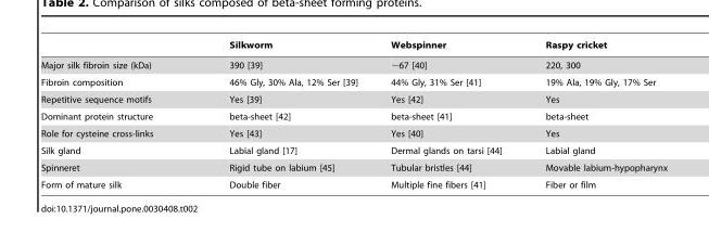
<table><thead><tr><td></td><td>Silkworm</td><td>Webspinner</td><td>Raspy cricket</td></tr></thead><tbody><tr><td>Major silk fibroin size (kDa)</td><td>390 [39]</td><td>∼67 [40]</td><td>220, 300</td></tr><tr><td>Fibroin composition</td><td>46% Gly, 30% Ala, 12% Ser [39]</td><td>44% Gly, 31% Ser [41]</td><td>19% Ala, 19% Gly, 17% Ser</td></tr><tr><td>Repetitive sequence motifs</td><td>Yes [39]</td><td>Yes [42]</td><td>Yes</td></tr><tr><td>Dominant protein structure</td><td>beta-sheet [42]</td><td>beta-sheet [41]</td><td>beta-sheet</td></tr><tr><td>Role for cysteine cross-links</td><td>Yes [43]</td><td>Yes [40]</td><td>Yes</td></tr><tr><td>Silk gland</td><td>Labial gland [17]</td><td>Dermal glands on tarsi [44]</td><td>Labial gland</td></tr><tr><td>Spinneret</td><td>Rigid tube on labium [45]</td><td>Tubular bristles [44]</td><td>Movable labium-hypopharynx</td></tr><tr><td>Form of mature silk</td><td>Double fiber</td><td>Multiple fine fibers [41]</td><td>Fiber or film</td></tr></tbody></table>